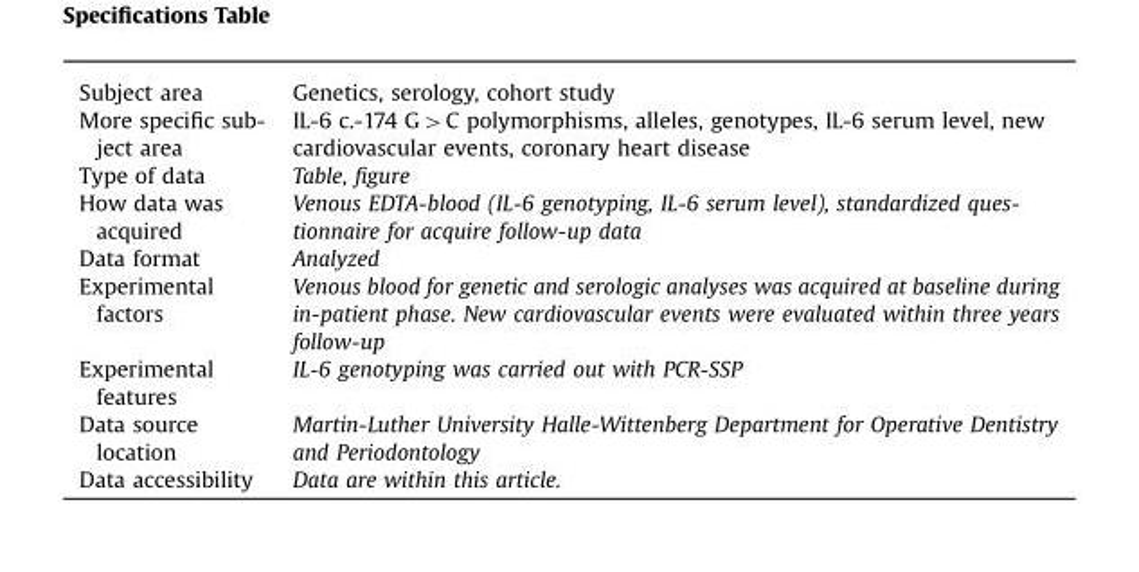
<table><tbody><tr><td>Subject area</td><td>Genetics, serology, cohort study</td></tr><tr><td>More specific sub- ject area</td><td>IL-6 c.-174 G&gt;C polymorphisms, alleles, genotypes, IL-6 serum level, new cardiovascular events, coronary heart disease</td></tr><tr><td>Type of data</td><td>Table, figure</td></tr><tr><td>How data was acquired</td><td>Venous EDTA-blood (IL-6 genotyping, IL-6 serum level), standardized ques- tionnaire for acquire follow-up data</td></tr><tr><td>Data format</td><td>Analyzed</td></tr><tr><td>Experimental factors</td><td>Venous blood for genetic and serologic analyses was acquired at baseline during in-patient phase. New cardiovascular events were evaluated within three years follow-up</td></tr><tr><td>Experimental features</td><td>IL-6 genotyping was carried out with PCR-SSP</td></tr><tr><td>Data source location</td><td>Martin-Luther University Halle-Wittenberg Department for Operative Dentistry and Periodontology</td></tr><tr><td>Data accessibility</td><td>Data are within this article.</td></tr></tbody></table>